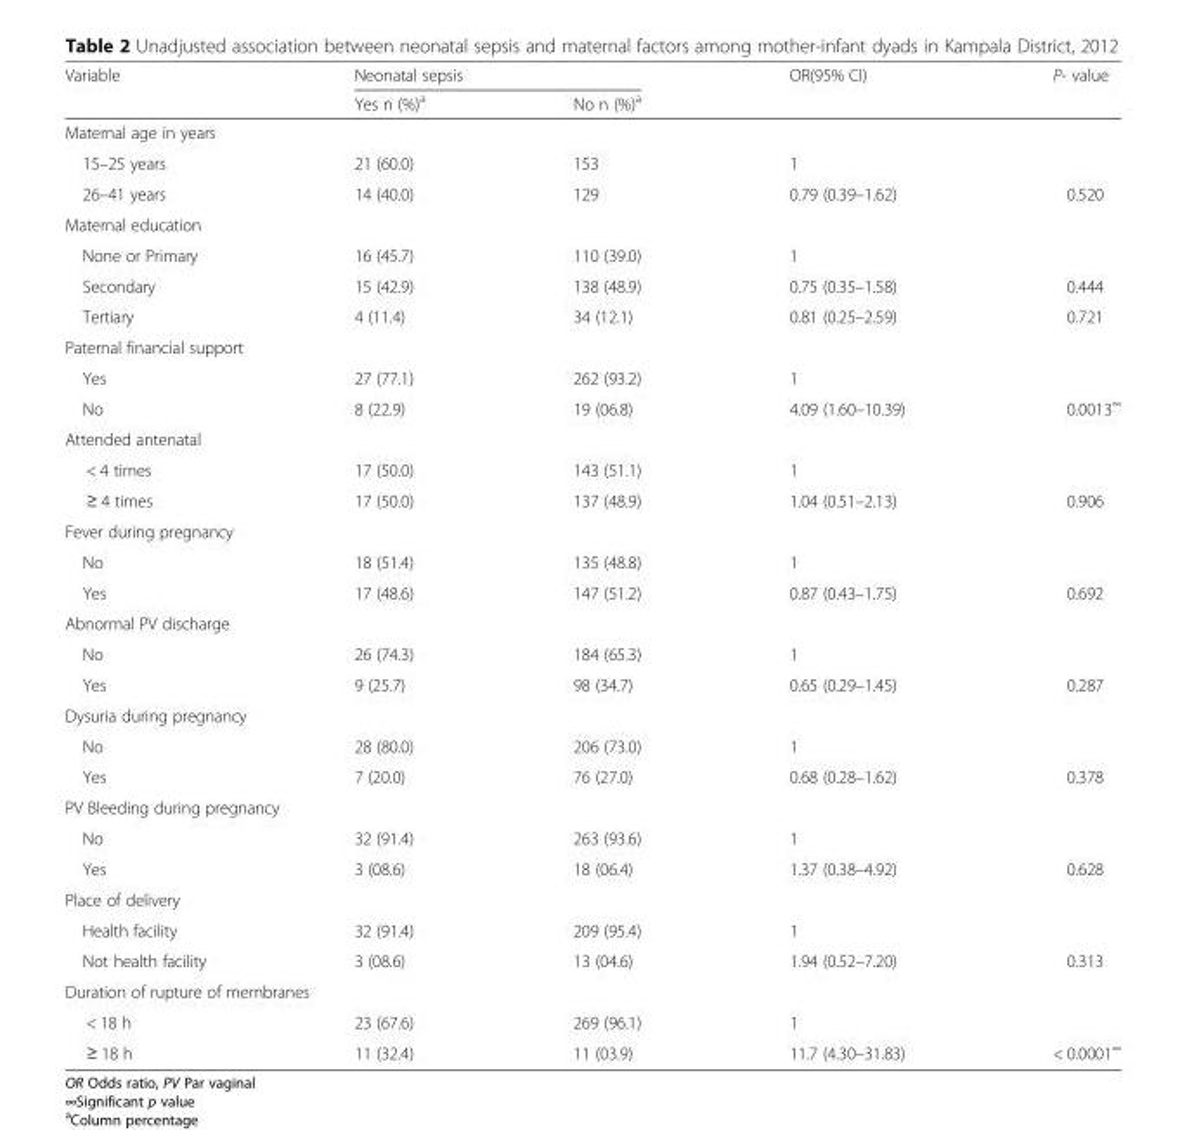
<table><thead><tr><td rowspan="2">Variable</td><td colspan="2">Neonatal sepsis</td><td rowspan="2">OR(95% CI)</td><td rowspan="2">P- value</td></tr><tr><td>Yes n (%)<sup>a</sup></td><td>No n (%)<sup>a</sup></td></tr></thead><tbody><tr><td colspan="5">Maternal age in years</td></tr><tr><td>15–25 years</td><td>21 (60.0)</td><td>153</td><td>1</td><td></td></tr><tr><td>26–41 years</td><td>14 (40.0)</td><td>129</td><td>0.79 (0.39–1.62)</td><td>0.520</td></tr><tr><td colspan="5">Maternal education</td></tr><tr><td>None or Primary</td><td>16 (45.7)</td><td>110 (39.0)</td><td>1</td><td></td></tr><tr><td>Secondary</td><td>15 (42.9)</td><td>138 (48.9)</td><td>0.75 (0.35–1.58)</td><td>0.444</td></tr><tr><td>Tertiary</td><td>4 (11.4)</td><td>34 (12.1)</td><td>0.81 (0.25–2.59)</td><td>0.721</td></tr><tr><td colspan="5">Paternal financial support</td></tr><tr><td>Yes</td><td>27 (77.1)</td><td>262 (93.2)</td><td>1</td><td></td></tr><tr><td>No</td><td>8 (22.9)</td><td>19 (06.8)</td><td>4.09 (1.60–10.39)</td><td>0.0013<sup>∞</sup></td></tr><tr><td colspan="5">Attended antenatal</td></tr><tr><td>&lt; 4 times</td><td>17 (50.0)</td><td>143 (51.1)</td><td>1</td><td></td></tr><tr><td>≥ 4 times</td><td>17 (50.0)</td><td>137 (48.9)</td><td>1.04 (0.51–2.13)</td><td>0.906</td></tr><tr><td colspan="5">Fever during pregnancy</td></tr><tr><td>No</td><td>18 (51.4)</td><td>135 (48.8)</td><td>1</td><td></td></tr><tr><td>Yes</td><td>17 (48.6)</td><td>147 (51.2)</td><td>0.87 (0.43–1.75)</td><td>0.692</td></tr><tr><td colspan="5">Abnormal PV discharge</td></tr><tr><td>No</td><td>26 (74.3)</td><td>184 (65.3)</td><td>1</td><td></td></tr><tr><td>Yes</td><td>9 (25.7)</td><td>98 (34.7)</td><td>0.65 (0.29–1.45)</td><td>0.287</td></tr><tr><td colspan="5">Dysuria during pregnancy</td></tr><tr><td>No</td><td>28 (80.0)</td><td>206 (73.0)</td><td>1</td><td></td></tr><tr><td>Yes</td><td>7 (20.0)</td><td>76 (27.0)</td><td>0.68 (0.28–1.62)</td><td>0.378</td></tr><tr><td colspan="5">PV Bleeding during pregnancy</td></tr><tr><td>No</td><td>32 (91.4)</td><td>263 (93.6)</td><td>1</td><td></td></tr><tr><td>Yes</td><td>3 (08.6)</td><td>18 (06.4)</td><td>1.37 (0.38–4.92)</td><td>0.628</td></tr><tr><td colspan="5">Place of delivery</td></tr><tr><td>Health facility</td><td>32 (91.4)</td><td>209 (95.4)</td><td>1</td><td></td></tr><tr><td>Not health facility</td><td>3 (08.6)</td><td>13 (04.6)</td><td>1.94 (0.52–7.20)</td><td>0.313</td></tr><tr><td colspan="5">Duration of rupture of membranes</td></tr><tr><td>&lt; 18 h</td><td>23 (67.6)</td><td>269 (96.1)</td><td>1</td><td></td></tr><tr><td>≥ 18 h</td><td>11 (32.4)</td><td>11 (03.9)</td><td>11.7 (4.30–31.83)</td><td>&lt; 0.0001<sup>∞</sup></td></tr></tbody></table>